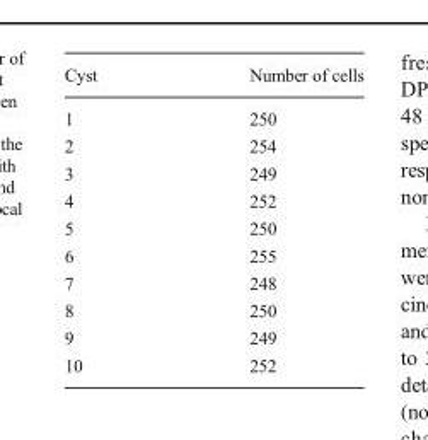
<table><thead><tr><td>Cyst</td><td>Number of cells</td></tr></thead><tbody><tr><td>1</td><td>250</td></tr><tr><td>2</td><td>254</td></tr><tr><td>3</td><td>249</td></tr><tr><td>4</td><td>252</td></tr><tr><td>5</td><td>250</td></tr><tr><td>6</td><td>255</td></tr><tr><td>7</td><td>248</td></tr><tr><td>8</td><td>250</td></tr><tr><td>9</td><td>249</td></tr><tr><td>10</td><td>252</td></tr></tbody></table>